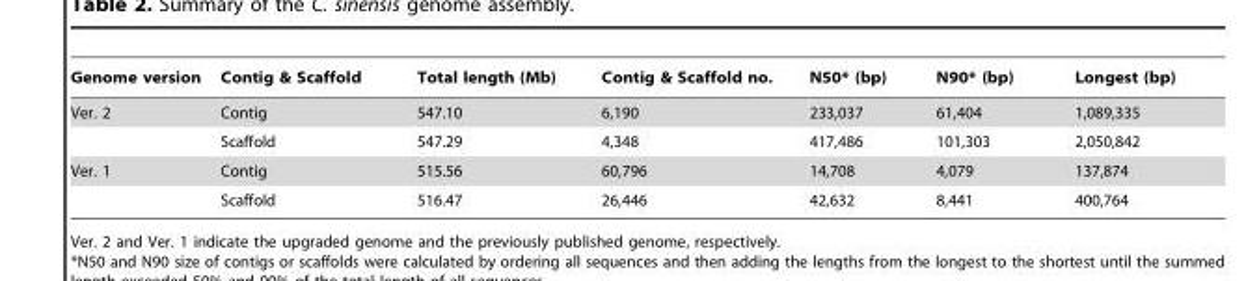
<table><thead><tr><td>Genome version</td><td>Contig &amp; Scaffold</td><td>Total length (Mb)</td><td>Contig &amp; Scaffold no.</td><td>N50* (bp)</td><td>N90* (bp)</td><td>Longest (bp)</td></tr></thead><tbody><tr><td rowspan="2">Ver. 2</td><td>Contig</td><td>547.10</td><td>6,190</td><td>233,037</td><td>61,404</td><td>1,089,335</td></tr><tr><td>Scaffold</td><td>547.29</td><td>4,348</td><td>417,486</td><td>101,303</td><td>2,050,842</td></tr><tr><td rowspan="2">Ver. 1</td><td>Contig</td><td>515.56</td><td>60,796</td><td>14,708</td><td>4,079</td><td>137,874</td></tr><tr><td>Scaffold</td><td>516.47</td><td>26,446</td><td>42,632</td><td>8,441</td><td>400,764</td></tr></tbody></table>